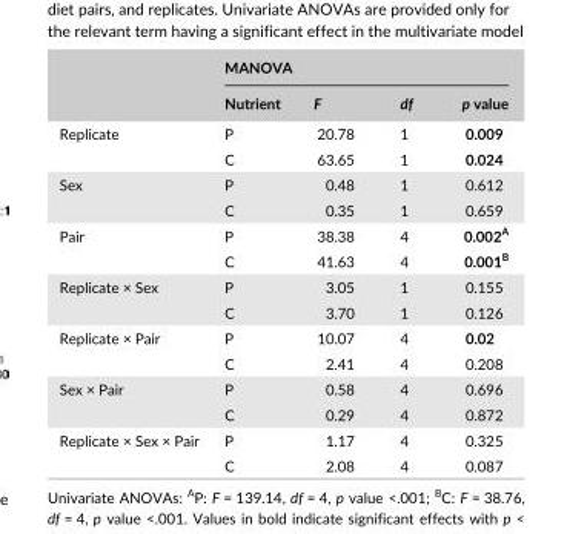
<table><thead><tr><td rowspan="2"></td><td colspan="4">MANOVA</td></tr><tr><td>Nutrient</td><td>F</td><td>df</td><td>p value</td></tr></thead><tbody><tr><td rowspan="2">Replicate</td><td>P</td><td>20.78</td><td>1</td><td>0.009</td></tr><tr><td>C</td><td>63.65</td><td>1</td><td>0.024</td></tr><tr><td rowspan="2">Sex</td><td>P</td><td>0.48</td><td>1</td><td>0.612</td></tr><tr><td>C</td><td>0.35</td><td>1</td><td>0.659</td></tr><tr><td rowspan="2">Pair</td><td>P</td><td>38.38</td><td>4</td><td>0.002<sup>A</sup></td></tr><tr><td>C</td><td>41.63</td><td>4</td><td>0.001<sup>B</sup></td></tr><tr><td rowspan="2">Replicate × Sex</td><td>P</td><td>3.05</td><td>1</td><td>0.155</td></tr><tr><td>C</td><td>3.70</td><td>1</td><td>0.126</td></tr><tr><td rowspan="2">Replicate × Pair</td><td>P</td><td>10.07</td><td>4</td><td>0.02</td></tr><tr><td>C</td><td>2.41</td><td>4</td><td>0.208</td></tr><tr><td rowspan="2">Sex × Pair</td><td>P</td><td>0.58</td><td>4</td><td>0.696</td></tr><tr><td>C</td><td>0.29</td><td>4</td><td>0.872</td></tr><tr><td rowspan="2">Replicate × Sex × Pair</td><td>P</td><td>1.17</td><td>4</td><td>0.325</td></tr><tr><td>C</td><td>2.08</td><td>4</td><td>0.087</td></tr></tbody></table>